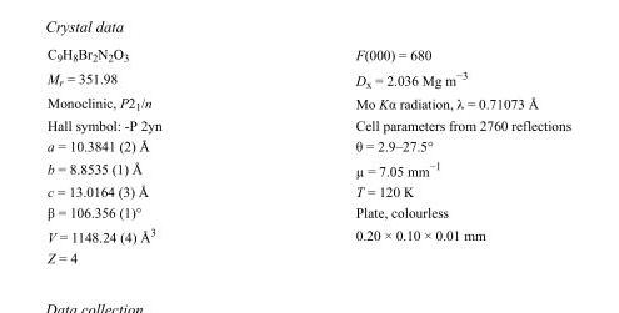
<table><tbody><tr><td>C<sub>9</sub>H<sub>8</sub>Br<sub>2</sub>N<sub>2</sub>O<sub>3</sub></td><td>F(000) = 680</td></tr><tr><td>M<sub>r</sub> = 351.98</td><td>D<sub>x</sub> = 2.036 Mg m<sup>−3</sup></td></tr><tr><td>Monoclinic, P2<sub>1</sub>/n</td><td>Mo Kα radiation, λ = 0.71073 Å</td></tr><tr><td>Hall symbol: -P 2yn</td><td>Cell parameters from 2760 reflections</td></tr><tr><td>a = 10.3841 (2) Å</td><td>θ = 2.9–27.5°</td></tr><tr><td>b = 8.8535 (1) Å</td><td>µ = 7.05 mm<sup>−1</sup></td></tr><tr><td>c = 13.0164 (3) Å</td><td>T = 120 K</td></tr><tr><td>β = 106.356 (1)°</td><td>Plate, colourless</td></tr><tr><td>V = 1148.24 (4) Å<sup>3</sup></td><td>0.20 × 0.10 × 0.01 mm</td></tr><tr><td>Z = 4</td><td></td></tr></tbody></table>